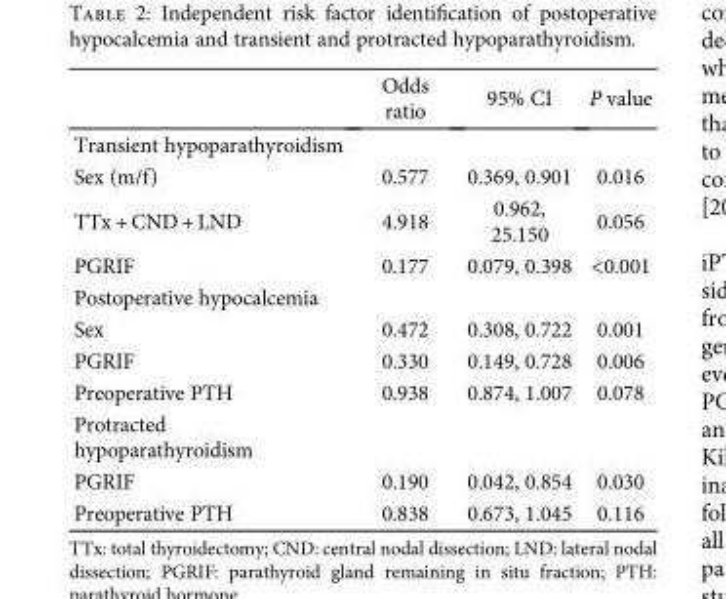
<table><thead><tr><td></td><td>Odds ratio</td><td>95% CI</td><td>P value</td></tr></thead><tbody><tr><td colspan="4">Transient hypoparathyroidism</td></tr><tr><td>Sex (m/f)</td><td>0.577</td><td>0.369, 0.901</td><td>0.016</td></tr><tr><td>TTx + CND + LND</td><td>4.918</td><td>0.962, 25.150</td><td>0.056</td></tr><tr><td>PGRIF</td><td>0.177</td><td>0.079, 0.398</td><td>&lt;0.001</td></tr><tr><td colspan="4">Postoperative hypocalcemia</td></tr><tr><td>Sex</td><td>0.472</td><td>0.308, 0.722</td><td>0.001</td></tr><tr><td>PGRIF</td><td>0.330</td><td>0.149, 0.728</td><td>0.006</td></tr><tr><td>Preoperative PTH</td><td>0.938</td><td>0.874, 1.007</td><td>0.078</td></tr><tr><td colspan="4">Protracted hypoparathyroidism</td></tr><tr><td>PGRIF</td><td>0.190</td><td>0.042, 0.854</td><td>0.030</td></tr><tr><td>Preoperative PTH</td><td>0.838</td><td>0.673, 1.045</td><td>0.116</td></tr></tbody></table>